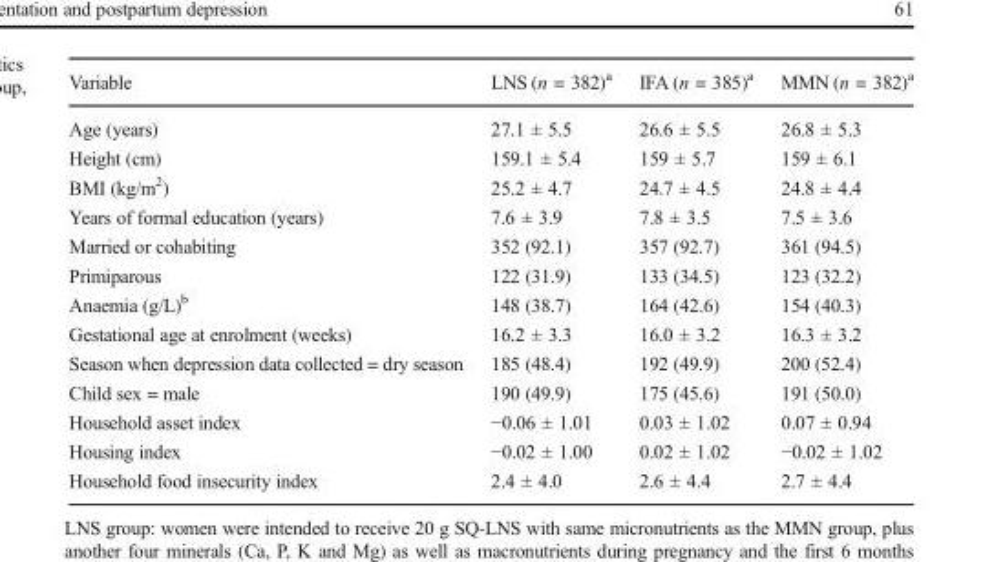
<table><thead><tr><td>Variable</td><td>LNS (n = 382)<sup>a</sup></td><td>IFA (n = 385)<sup>a</sup></td><td>MMN (n = 382)<sup>a</sup></td></tr></thead><tbody><tr><td>Age (years)</td><td>27.1 ± 5.5</td><td>26.6 ± 5.5</td><td>26.8 ± 5.3</td></tr><tr><td>Height (cm)</td><td>159.1 ± 5.4</td><td>159 ± 5.7</td><td>159 ± 6.1</td></tr><tr><td>BMI (kg/m<sup>2</sup>)</td><td>25.2 ± 4.7</td><td>24.7 ± 4.5</td><td>24.8 ± 4.4</td></tr><tr><td>Years of formal education (years)</td><td>7.6 ± 3.9</td><td>7.8 ± 3.5</td><td>7.5 ± 3.6</td></tr><tr><td>Married or cohabiting</td><td>352 (92.1)</td><td>357 (92.7)</td><td>361 (94.5)</td></tr><tr><td>Primiparous</td><td>122 (31.9)</td><td>133 (34.5)</td><td>123 (32.2)</td></tr><tr><td>Anaemia (g/L)<sup>b</sup></td><td>148 (38.7)</td><td>164 (42.6)</td><td>154 (40.3)</td></tr><tr><td>Gestational age at enrolment (weeks)</td><td>16.2 ± 3.3</td><td>16.0 ± 3.2</td><td>16.3 ± 3.2</td></tr><tr><td>Season when depression data collected = dry season</td><td>185 (48.4)</td><td>192 (49.9)</td><td>200 (52.4)</td></tr><tr><td>Child sex = male</td><td>190 (49.9)</td><td>175 (45.6)</td><td>191 (50.0)</td></tr><tr><td>Household asset index</td><td>−0.06 ± 1.01</td><td>0.03 ± 1.02</td><td>0.07 ± 0.94</td></tr><tr><td>Housing index</td><td>−0.02 ± 1.00</td><td>0.02 ± 1.02</td><td>−0.02 ± 1.02</td></tr><tr><td>Household food insecurity index</td><td>2.4 ± 4.0</td><td>2.6 ± 4.4</td><td>2.7 ± 4.4</td></tr></tbody></table>